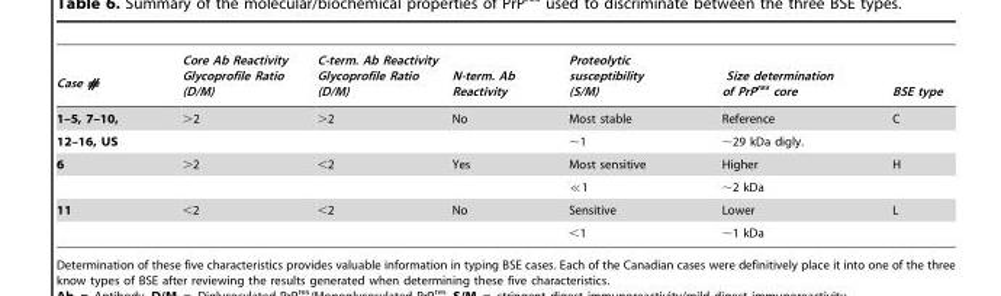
<table><thead><tr><td>Case #</td><td>Core Ab Reactivity Glycoprofile Ratio (D/M)</td><td>C-term. Ab Reactivity Glycoprofile Ratio (D/M)</td><td>N-term. Ab Reactivity</td><td>Proteolytic susceptibility (S/M)</td><td>Size determination of PrP<sup>res</sup> core</td><td>BSE type</td></tr></thead><tbody><tr><td>1–5, 7–10,</td><td>&gt;2</td><td>&gt;2</td><td>No</td><td>Most stable</td><td>Reference</td><td>C</td></tr><tr><td>12–16, US</td><td></td><td></td><td></td><td>∼1</td><td>∼29 kDa digly.</td><td></td></tr><tr><td rowspan="2">6</td><td>&gt;2</td><td>&lt;2</td><td>Yes</td><td>Most sensitive</td><td>Higher</td><td>H</td></tr><tr><td></td><td></td><td></td><td>≪1</td><td>∼2 kDa</td><td></td></tr><tr><td rowspan="2">11</td><td>&lt;2</td><td>&lt;2</td><td>No</td><td>Sensitive</td><td>Lower</td><td>L</td></tr><tr><td></td><td></td><td></td><td>&lt;1</td><td>∼1 kDa</td><td></td></tr></tbody></table>